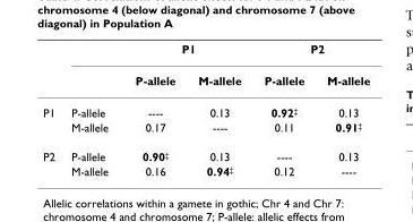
<table><thead><tr><td rowspan="2"></td><td rowspan="2"></td><td colspan="2">P1</td><td colspan="2">P2</td></tr><tr><td>P-allele</td><td>M-allele</td><td>P-allele</td><td>M-allele</td></tr></thead><tbody><tr><td rowspan="2">P1</td><td>P-allele</td><td>----</td><td>0.13</td><td>0.92<sup>‡</sup></td><td>0.13</td></tr><tr><td>M-allele</td><td>0.17</td><td>----</td><td>0.11</td><td>0.91<sup>‡</sup></td></tr><tr><td rowspan="2">P2</td><td>P-allele</td><td>0.90<sup>‡</sup></td><td>0.13</td><td>----</td><td>0.13</td></tr><tr><td>M-allele</td><td>0.16</td><td>0.94<sup>‡</sup></td><td>0.12</td><td>----</td></tr></tbody></table>